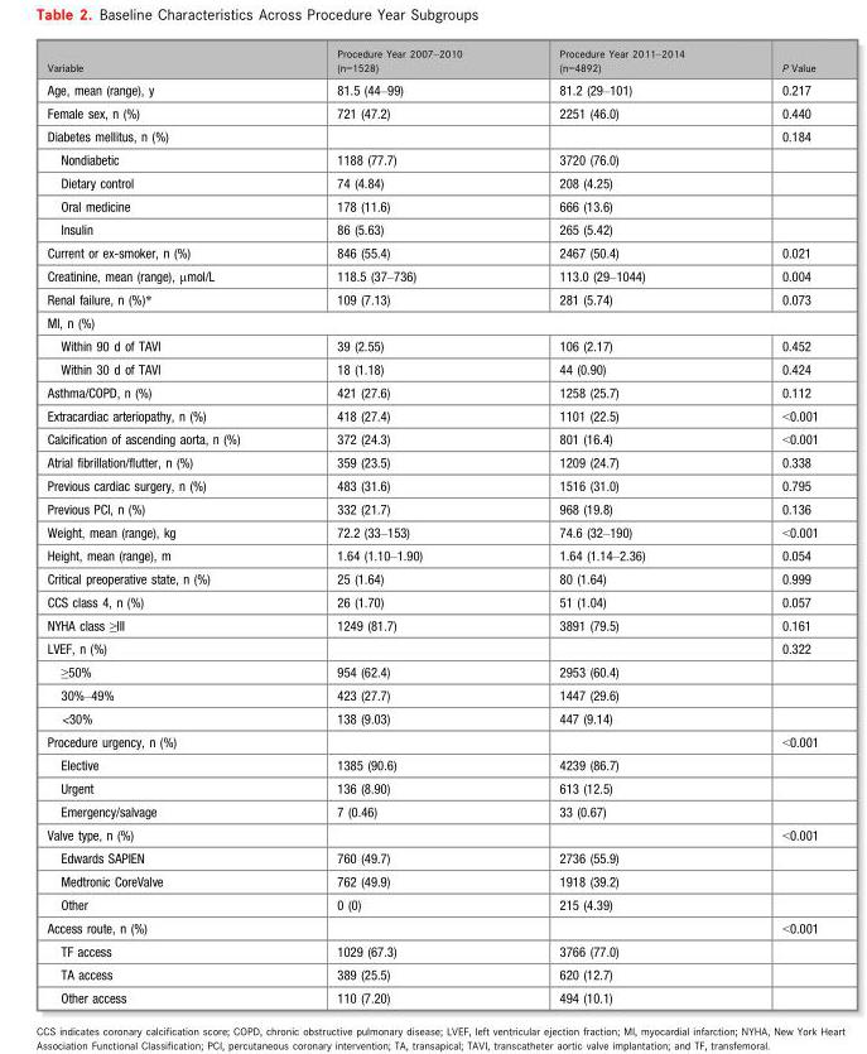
<table><thead><tr><td>Variable</td><td>Procedure Year 2007–2010 (n=1528)</td><td>Procedure Year 2011–2014 (n=4892)</td><td>P Value</td></tr></thead><tbody><tr><td>Age, mean (range), y</td><td>81.5 (44–99)</td><td>81.2 (29–101)</td><td>0.217</td></tr><tr><td>Female sex, n (%)</td><td>721 (47.2)</td><td>2251 (46.0)</td><td>0.440</td></tr><tr><td>Diabetes mellitus, n (%)</td><td></td><td></td><td>0.184</td></tr><tr><td>Nondiabetic</td><td>1188 (77.7)</td><td>3720 (76.0)</td><td></td></tr><tr><td>Dietary control</td><td>74 (4.84)</td><td>208 (4.25)</td><td></td></tr><tr><td>Oral medicine</td><td>178 (11.6)</td><td>666 (13.6)</td><td></td></tr><tr><td>Insulin</td><td>86 (5.63)</td><td>265 (5.42)</td><td></td></tr><tr><td>Current or ex-smoker, n (%)</td><td>846 (55.4)</td><td>2467 (50.4)</td><td>0.021</td></tr><tr><td>Creatinine, mean (range), μmol/L</td><td>118.5 (37–736)</td><td>113.0 (29–1044)</td><td>0.004</td></tr><tr><td>Renal failure, n (%)*</td><td>109 (7.13)</td><td>281 (5.74)</td><td>0.073</td></tr><tr><td colspan="4">MI, n (%)</td></tr><tr><td>Within 90 d of TAVI</td><td>39 (2.55)</td><td>106 (2.17)</td><td>0.452</td></tr><tr><td>Within 30 d of TAVI</td><td>18 (1.18)</td><td>44 (0.90)</td><td>0.424</td></tr><tr><td>Asthma/COPD, n (%)</td><td>421 (27.6)</td><td>1258 (25.7)</td><td>0.112</td></tr><tr><td>Extracardiac arteriopathy, n (%)</td><td>418 (27.4)</td><td>1101 (22.5)</td><td>&lt;0.001</td></tr><tr><td>Calcification of ascending aorta, n (%)</td><td>372 (24.3)</td><td>801 (16.4)</td><td>&lt;0.001</td></tr><tr><td>Atrial fibrillation/flutter, n (%)</td><td>359 (23.5)</td><td>1209 (24.7)</td><td>0.338</td></tr><tr><td>Previous cardiac surgery, n (%)</td><td>483 (31.6)</td><td>1516 (31.0)</td><td>0.795</td></tr><tr><td>Previous PCI, n (%)</td><td>332 (21.7)</td><td>968 (19.8)</td><td>0.136</td></tr><tr><td>Weight, mean (range), kg</td><td>72.2 (33–153)</td><td>74.6 (32–190)</td><td>&lt;0.001</td></tr><tr><td>Height, mean (range), m</td><td>1.64 (1.10–1.90)</td><td>1.64 (1.14–2.36)</td><td>0.054</td></tr><tr><td>Critical preoperative state, n (%)</td><td>25 (1.64)</td><td>80 (1.64)</td><td>0.999</td></tr><tr><td>CCS class 4, n (%)</td><td>26 (1.70)</td><td>51 (1.04)</td><td>0.057</td></tr><tr><td>NYHA class ≥III</td><td>1249 (81.7)</td><td>3891 (79.5)</td><td>0.161</td></tr><tr><td>LVEF, n (%)</td><td></td><td></td><td>0.322</td></tr><tr><td>≥50%</td><td>954 (62.4)</td><td>2953 (60.4)</td><td></td></tr><tr><td>30%–49%</td><td>423 (27.7)</td><td>1447 (29.6)</td><td></td></tr><tr><td>&lt;30%</td><td>138 (9.03)</td><td>447 (9.14)</td><td></td></tr><tr><td>Procedure urgency, n (%)</td><td></td><td></td><td>&lt;0.001</td></tr><tr><td>Elective</td><td>1385 (90.6)</td><td>4239 (86.7)</td><td></td></tr><tr><td>Urgent</td><td>136 (8.90)</td><td>613 (12.5)</td><td></td></tr><tr><td>Emergency/salvage</td><td>7 (0.46)</td><td>33 (0.67)</td><td></td></tr><tr><td>Valve type, n (%)</td><td></td><td></td><td>&lt;0.001</td></tr><tr><td>Edwards SAPIEN</td><td>760 (49.7)</td><td>2736 (55.9)</td><td></td></tr><tr><td>Medtronic CoreValve</td><td>762 (49.9)</td><td>1918 (39.2)</td><td></td></tr><tr><td>Other</td><td>0 (0)</td><td>215 (4.39)</td><td></td></tr><tr><td>Access route, n (%)</td><td></td><td></td><td>&lt;0.001</td></tr><tr><td>TF access</td><td>1029 (67.3)</td><td>3766 (77.0)</td><td></td></tr><tr><td>TA access</td><td>389 (25.5)</td><td>620 (12.7)</td><td></td></tr><tr><td>Other access</td><td>110 (7.20)</td><td>494 (10.1)</td><td></td></tr></tbody></table>